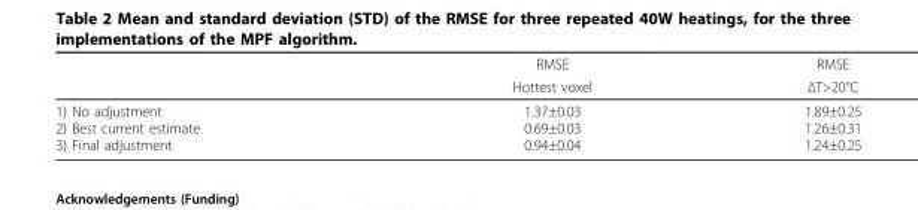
<table><thead><tr><td rowspan="2"></td><td rowspan="2">RMSE Hottest voxel</td><td rowspan="2">RMSE ΔT&gt;20°C</td></tr><tr></tr></thead><tbody><tr><td>1) No adjustment 2) Best current estimate 3) Final adjustment</td><td>1.37±0.03 0.69±0.03 0.94±0.04</td><td>1.89±0.25 1.26±0.31 1.24±0.25</td></tr></tbody></table>